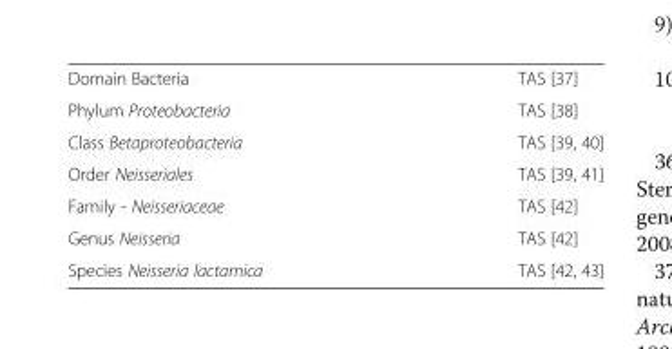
<table><tbody><tr><td>Domain Bacteria</td><td>TAS [37]</td></tr><tr><td>Phylum Proteobacteria</td><td>TAS [38]</td></tr><tr><td>Class Betaproteobacteria</td><td>TAS [39, 40]</td></tr><tr><td>Order Neisseriales</td><td>TAS [39, 41]</td></tr><tr><td>Family - Neisseriaceae</td><td>TAS [42]</td></tr><tr><td>Genus Neisseria</td><td>TAS [42]</td></tr><tr><td>Species Neisseria lactamica</td><td>TAS [42, 43]</td></tr></tbody></table>